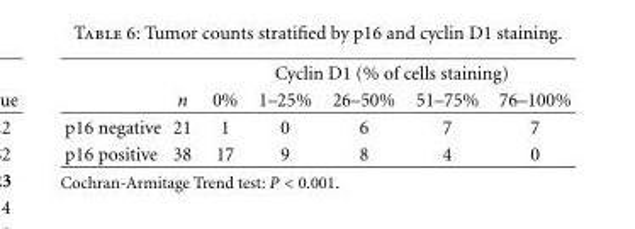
<table><thead><tr><td rowspan="2"></td><td rowspan="2">n</td><td colspan="5">Cyclin D1 (% of cells staining)</td></tr><tr><td>0%</td><td>1–25%</td><td>26–50%</td><td>51–75%</td><td>76–100%</td></tr></thead><tbody><tr><td>p16 negative</td><td>21</td><td>1</td><td>0</td><td>6</td><td>7</td><td>7</td></tr><tr><td>p16 positive</td><td>38</td><td>17</td><td>9</td><td>8</td><td>4</td><td>0</td></tr></tbody></table>